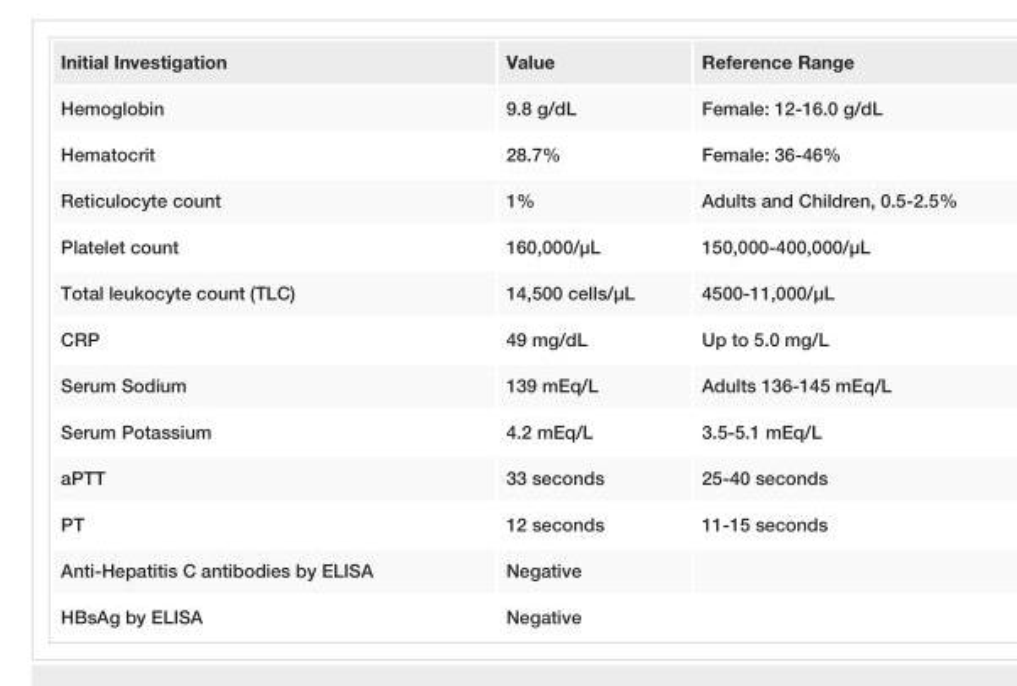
<table><tbody><tr><td>Initial Investigation</td><td>Value</td><td>Reference Range</td></tr><tr><td>Hemoglobin</td><td>9.8 g/dL</td><td>Female: 12-16.0 g/dL</td></tr><tr><td>Hematocrit</td><td>28.7%</td><td>Female: 36-46%</td></tr><tr><td>Reticulocyte count</td><td>1%</td><td>Adults and Children, 0.5-2.5%</td></tr><tr><td>Platelet count</td><td>160,000/µL</td><td>150,000-400,000/µL</td></tr><tr><td>Total leukocyte count (TLC)</td><td>14,500 cells/µL</td><td>4500-11,000/µL</td></tr><tr><td>CRP</td><td>49 mg/dL</td><td>Up to 5.0 mg/L</td></tr><tr><td>Serum Sodium</td><td>139 mEq/L</td><td>Adults 136-145 mEq/L</td></tr><tr><td>Serum Potassium</td><td>4.2 mEq/L</td><td>3.5-5.1 mEq/L</td></tr><tr><td>aPTT</td><td>33 seconds</td><td>25-40 seconds</td></tr><tr><td>PT</td><td>12 seconds</td><td>11-15 seconds</td></tr><tr><td>Anti-Hepatitis C antibodies by ELISA</td><td>Negative</td><td></td></tr><tr><td>HBsAg by ELISA</td><td>Negative</td><td></td></tr></tbody></table>